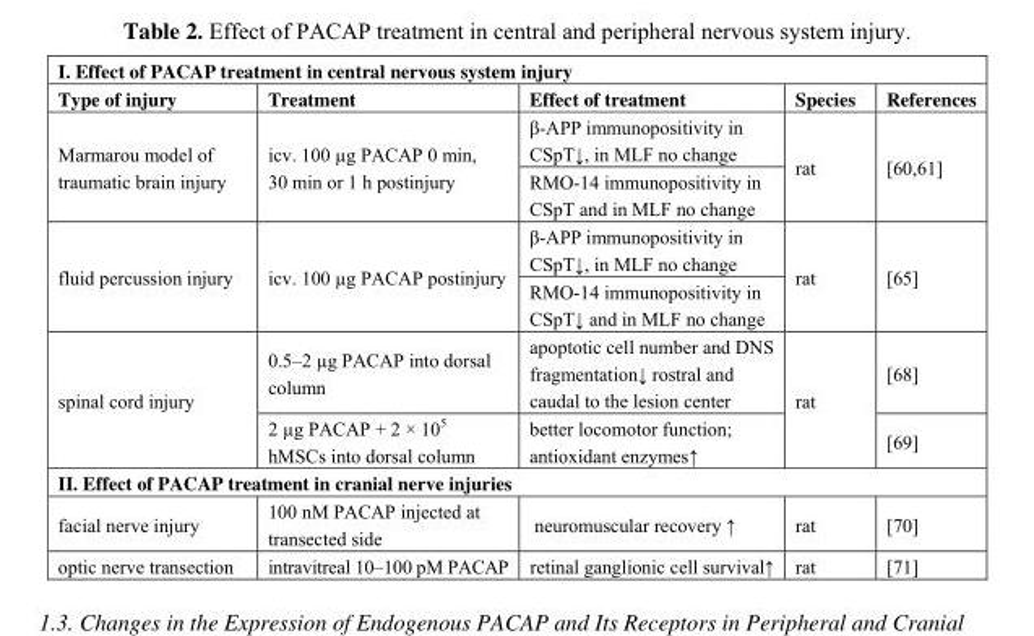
<table><thead><tr><td colspan="5">I. Effect of PACAP treatment in central nervous system injury</td></tr><tr><td>Type of injury</td><td>Treatment</td><td>Effect of treatment</td><td>Species</td><td>References</td></tr></thead><tbody><tr><td rowspan="2">Marmarou model of traumatic brain injury</td><td rowspan="2">icv. 100 µg PACAP 0 min, 30 min or 1 h postinjury</td><td>β-APP immunopositivity in CSpT↓, in MLF no change</td><td rowspan="2">rat</td><td rowspan="2">[60,61]</td></tr><tr><td>RMO-14 immunopositivity in CSpT and in MLF no change</td></tr><tr><td rowspan="2">fluid percussion injury</td><td rowspan="2">icv. 100 µg PACAP postinjury</td><td>β-APP immunopositivity in CSpT↓, in MLF no change</td><td rowspan="2">rat</td><td rowspan="2">[65]</td></tr><tr><td>RMO-14 immunopositivity in CSpT↓ and in MLF no change</td></tr><tr><td rowspan="2">spinal cord injury</td><td>0.5–2 µg PACAP into dorsal column</td><td>apoptotic cell number and DNS fragmentation↓ rostral and caudal to the lesion center</td><td rowspan="2">rat</td><td>[68]</td></tr><tr><td>2 µg PACAP + 2 × 10<sup>5</sup> hMSCs into dorsal column</td><td>better locomotor function; antioxidant enzymes↑</td><td>[69]</td></tr><tr><td colspan="5">II. Effect of PACAP treatment in cranial nerve injuries</td></tr><tr><td>facial nerve injury</td><td>100 nM PACAP injected at transected side</td><td>neuromuscular recovery ↑</td><td>rat</td><td>[70]</td></tr><tr><td>optic nerve transection</td><td>intravitreal 10–100 pM PACAP</td><td>retinal ganglionic cell survival↑</td><td>rat</td><td>[71]</td></tr></tbody></table>